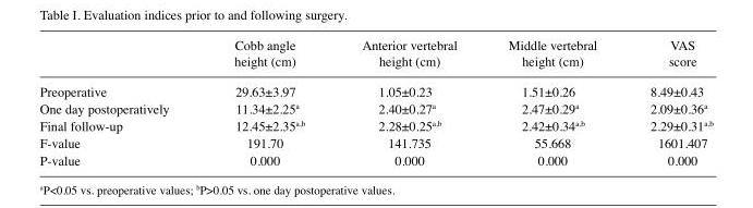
<table><thead><tr><td></td><td>Cobb angle height (cm)</td><td>Anterior vertebral height (cm)</td><td>Middle vertebral height (cm)</td><td>VAS score</td></tr></thead><tbody><tr><td>Preoperative</td><td>29.63±3.97</td><td>1.05±0.23</td><td>1.51±0.26</td><td>8.49±0.43</td></tr><tr><td>One day postoperatively</td><td>11.34±2.25<sup>a</sup></td><td>2.40±0.27<sup>a</sup></td><td>2.47±0.29<sup>a</sup></td><td>2.09±0.36<sup>a</sup></td></tr><tr><td>Final follow-up</td><td>12.45±2.35<sup>a</sup>,<sup>b</sup></td><td>2.28±0.25<sup>a</sup>,<sup>b</sup></td><td>2.42±0.34<sup>a</sup>,<sup>b</sup></td><td>2.29±0.31<sup>a</sup>,<sup>b</sup></td></tr><tr><td>F-value</td><td>191.70</td><td>141.735</td><td>55.668</td><td>1601.407</td></tr><tr><td>P-value</td><td>0.000</td><td>0.000</td><td>0.000</td><td>0.000</td></tr></tbody></table>